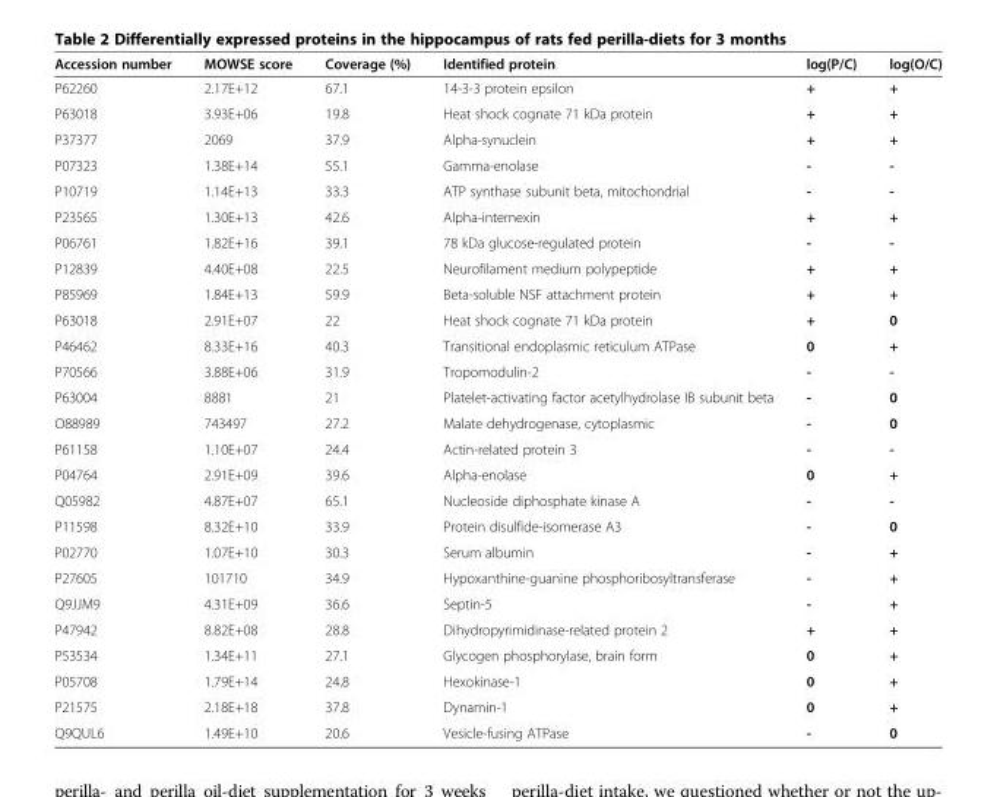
<table><thead><tr><td>Accession number</td><td>MOWSE score</td><td>Coverage (%)</td><td>Identified protein</td><td>log(P/C)</td><td>log(O/C)</td></tr></thead><tbody><tr><td>P62260</td><td>2.17E+12</td><td>67.1</td><td>14-3-3 protein epsilon</td><td>+</td><td>+</td></tr><tr><td>P63018</td><td>3.93E+06</td><td>19.8</td><td>Heat shock cognate 71 kDa protein</td><td>+</td><td>+</td></tr><tr><td>P37377</td><td>2069</td><td>37.9</td><td>Alpha-synuclein</td><td>+</td><td>+</td></tr><tr><td>P07323</td><td>1.38E+14</td><td>55.1</td><td>Gamma-enolase</td><td>-</td><td>-</td></tr><tr><td>P10719</td><td>1.14E+13</td><td>33.3</td><td>ATP synthase subunit beta, mitochondrial</td><td>-</td><td>-</td></tr><tr><td>P23565</td><td>1.30E+13</td><td>42.6</td><td>Alpha-internexin</td><td>+</td><td>+</td></tr><tr><td>P06761</td><td>1.82E+16</td><td>39.1</td><td>78 kDa glucose-regulated protein</td><td>-</td><td>-</td></tr><tr><td>P12839</td><td>4.40E+08</td><td>22.5</td><td>Neurofilament medium polypeptide</td><td>+</td><td>+</td></tr><tr><td>P85969</td><td>1.84E+13</td><td>59.9</td><td>Beta-soluble NSF attachment protein</td><td>+</td><td>+</td></tr><tr><td>P63018</td><td>2.91E+07</td><td>22</td><td>Heat shock cognate 71 kDa protein</td><td>+</td><td>0</td></tr><tr><td>P46462</td><td>8.33E+16</td><td>40.3</td><td>Transitional endoplasmic reticulum ATPase</td><td>0</td><td>+</td></tr><tr><td>P70566</td><td>3.88E+06</td><td>31.9</td><td>Tropomodulin-2</td><td>-</td><td>-</td></tr><tr><td>P63004</td><td>8881</td><td>21</td><td>Platelet-activating factor acetylhydrolase IB subunit beta</td><td>-</td><td>0</td></tr><tr><td>O88989</td><td>743497</td><td>27.2</td><td>Malate dehydrogenase, cytoplasmic</td><td>-</td><td>0</td></tr><tr><td>P61158</td><td>1.10E+07</td><td>24.4</td><td>Actin-related protein 3</td><td>-</td><td>-</td></tr><tr><td>P04764</td><td>2.91E+09</td><td>39.6</td><td>Alpha-enolase</td><td>0</td><td>+</td></tr><tr><td>Q05982</td><td>4.87E+07</td><td>65.1</td><td>Nucleoside diphosphate kinase A</td><td>-</td><td>-</td></tr><tr><td>P11598</td><td>8.32E+10</td><td>33.9</td><td>Protein disulfide-isomerase A3</td><td>-</td><td>0</td></tr><tr><td>P02770</td><td>1.07E+10</td><td>30.3</td><td>Serum albumin</td><td>-</td><td>+</td></tr><tr><td>P27605</td><td>101710</td><td>34.9</td><td>Hypoxanthine-guanine phosphoribosyltransferase</td><td>-</td><td>+</td></tr><tr><td>Q9JJM9</td><td>4.31E+09</td><td>36.6</td><td>Septin-5</td><td>-</td><td>+</td></tr><tr><td>P47942</td><td>8.82E+08</td><td>28.8</td><td>Dihydropyrimidinase-related protein 2</td><td>+</td><td>+</td></tr><tr><td>P53534</td><td>1.34E+11</td><td>27.1</td><td>Glycogen phosphorylase, brain form</td><td>0</td><td>+</td></tr><tr><td>P05708</td><td>1.79E+14</td><td>24.8</td><td>Hexokinase-1</td><td>0</td><td>+</td></tr><tr><td>P21575</td><td>2.18E+18</td><td>37.8</td><td>Dynamin-1</td><td>0</td><td>+</td></tr><tr><td>Q9QUL6</td><td>1.49E+10</td><td>20.6</td><td>Vesicle-fusing ATPase</td><td>-</td><td>0</td></tr></tbody></table>